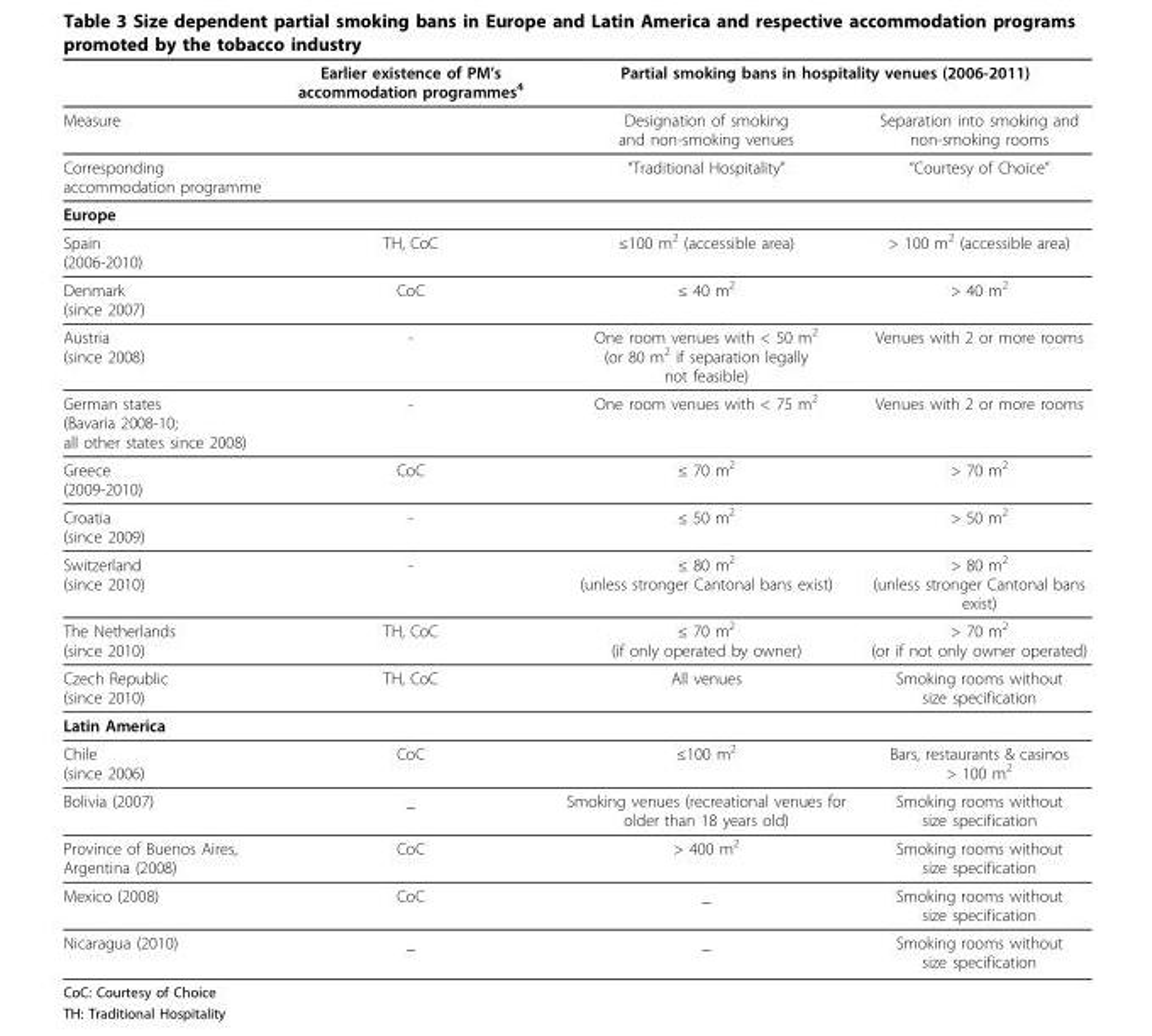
<table><thead><tr><td rowspan="2">Measure</td><td rowspan="2">Earlier existence of PM’s accommodation programmes4</td><td colspan="2">Partial smoking bans in hospitality venues (2006-2011)</td></tr><tr><td>Designation of smoking and non-smoking venues</td><td>Separation into smoking and non-smoking rooms</td></tr></thead><tbody><tr><td>Corresponding accommodation programme</td><td></td><td>“Traditional Hospitality”</td><td>“Courtesy of Choice”</td></tr><tr><td colspan="4">Europe</td></tr><tr><td>Spain (2006-2010)</td><td>TH, CoC</td><td>≤100 m2 (accessible area)</td><td>&gt; 100 m2 (accessible area)</td></tr><tr><td>Denmark (since 2007)</td><td>CoC</td><td>≤ 40 m2</td><td>&gt; 40 m2</td></tr><tr><td>Austria (since 2008)</td><td>-</td><td>One room venues with &lt; 50 m2 (or 80 m2 if separation legally not feasible)</td><td>Venues with 2 or more rooms</td></tr><tr><td>German states (Bavaria 2008-10; all other states since 2008)</td><td>-</td><td>One room venues with &lt; 75 m2</td><td>Venues with 2 or more rooms</td></tr><tr><td>Greece (2009-2010)</td><td>CoC</td><td>≤ 70 m2</td><td>&gt; 70 m2</td></tr><tr><td>Croatia (since 2009)</td><td>-</td><td>≤ 50 m2</td><td>&gt; 50 m2</td></tr><tr><td>Switzerland (since 2010)</td><td>-</td><td>≤ 80 m2 (unless stronger Cantonal bans exist)</td><td>&gt; 80 m2 (unless stronger Cantonal bans exist)</td></tr><tr><td>The Netherlands (since 2010)</td><td>TH, CoC</td><td>≤ 70 m2 (if only operated by owner)</td><td>&gt; 70 m2 (or if not only owner operated)</td></tr><tr><td>Czech Republic (since 2010)</td><td>TH, CoC</td><td>All venues</td><td>Smoking rooms without size specification</td></tr><tr><td colspan="4">Latin America</td></tr><tr><td>Chile (since 2006)</td><td>CoC</td><td>≤100 m2</td><td>Bars, restaurants &amp; casinos &gt; 100 m2</td></tr><tr><td>Bolivia (2007)</td><td>_</td><td>Smoking venues (recreational venues for older than 18 years old)</td><td>Smoking rooms without size specification</td></tr><tr><td>Province of Buenos Aires, Argentina (2008)</td><td>CoC</td><td>&gt; 400 m2</td><td>Smoking rooms without size specification</td></tr><tr><td>Mexico (2008)</td><td>CoC</td><td>_</td><td>Smoking rooms without size specification</td></tr><tr><td>Nicaragua (2010)</td><td>_</td><td>_</td><td>Smoking rooms without size specification</td></tr></tbody></table>